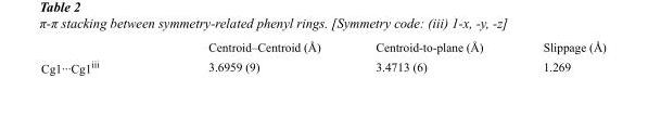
<table><thead><tr><td></td><td>Centroid–Centroid (Å)</td><td>Centroid-to-plane (Å)</td><td>Slippage (Å)</td></tr></thead><tbody><tr><td>Cg1···Cg1<sup>iii</sup></td><td>3.6959 (9)</td><td>3.4713 (6)</td><td>1.269</td></tr></tbody></table>